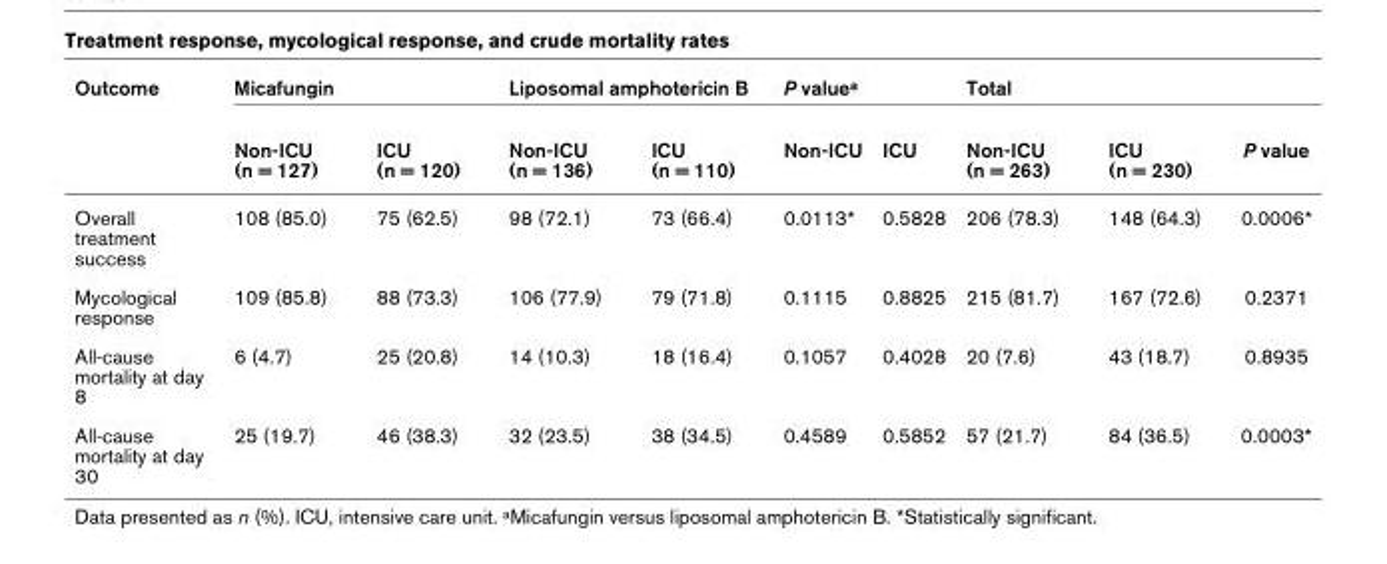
<table><thead><tr><td rowspan="2">Outcome</td><td colspan="2">Micafungin</td><td colspan="2">Liposomal amphotericin B</td><td colspan="2">P value<sup>a</sup></td><td colspan="2">Total</td><td rowspan="2">P value</td></tr><tr><td>Non-ICU (n = 127)</td><td>ICU (n = 120)</td><td>Non-ICU (n = 136)</td><td>ICU (n = 110)</td><td>Non-ICU</td><td>ICU</td><td>Non-ICU (n = 263)</td><td>ICU (n = 230)</td></tr></thead><tbody><tr><td>Overall treatment success</td><td>108 (85.0)</td><td>75 (62.5)</td><td>98 (72.1)</td><td>73 (66.4)</td><td>0.0113*</td><td>0.5828</td><td>206 (78.3)</td><td>148 (64.3)</td><td>0.0006*</td></tr><tr><td>Mycological response</td><td>109 (85.8)</td><td>88 (73.3)</td><td>106 (77.9)</td><td>79 (71.8)</td><td>0.1115</td><td>0.8825</td><td>215 (81.7)</td><td>167 (72.6)</td><td>0.2371</td></tr><tr><td>All-cause mortality at day 8</td><td>6 (4.7)</td><td>25 (20.8)</td><td>14 (10.3)</td><td>18 (16.4)</td><td>0.1057</td><td>0.4028</td><td>20 (7.6)</td><td>43 (18.7)</td><td>0.8935</td></tr><tr><td>All-cause mortality at day 30</td><td>25 (19.7)</td><td>46 (38.3)</td><td>32 (23.5)</td><td>38 (34.5)</td><td>0.4589</td><td>0.5852</td><td>57 (21.7)</td><td>84 (36.5)</td><td>0.0003*</td></tr></tbody></table>